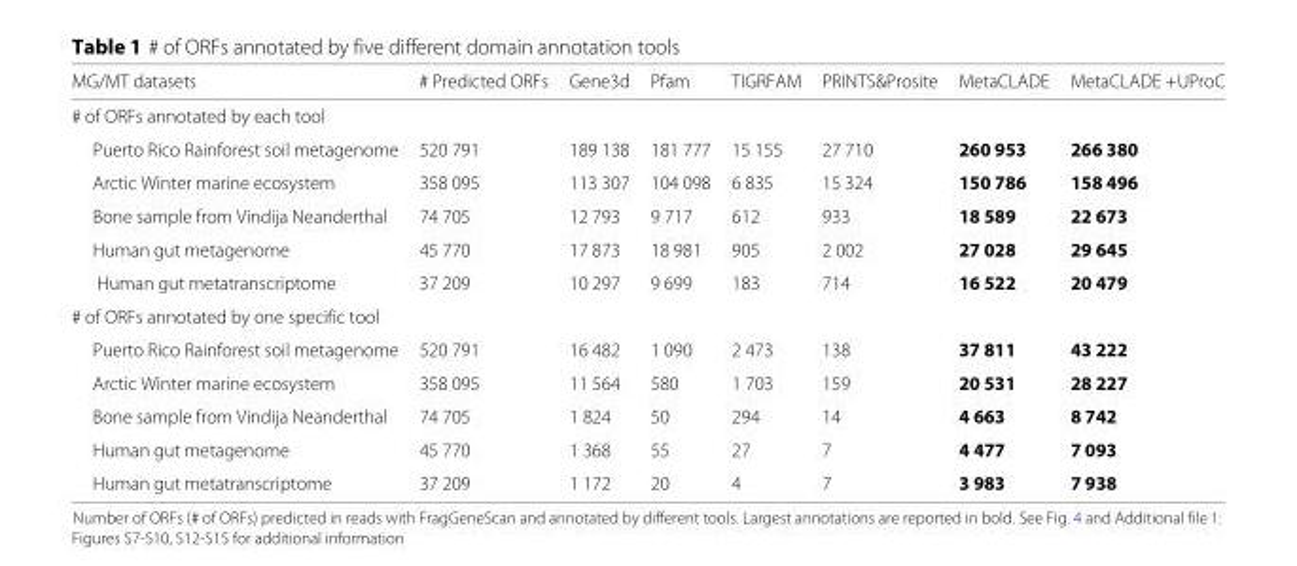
<table><thead><tr><td>MG/MT datasets</td><td># Predicted ORFs</td><td>Gene3d</td><td>Pfam</td><td>TIGRFAM</td><td>PRINTS&amp;Prosite</td><td>MetaCLADE</td><td>MetaCLADE +UProC</td></tr></thead><tbody><tr><td colspan="8"># of ORFs annotated by each tool</td></tr><tr><td>Puerto Rico Rainforest soil metagenome</td><td>520 791</td><td>189 138</td><td>181 777</td><td>15 155</td><td>27 710</td><td>260 953</td><td>266 380</td></tr><tr><td>Arctic Winter marine ecosystem</td><td>358 095</td><td>113 307</td><td>104 098</td><td>6 835</td><td>15 324</td><td>150 786</td><td>158 496</td></tr><tr><td>Bone sample from Vindija Neanderthal</td><td>74 705</td><td>12 793</td><td>9 717</td><td>612</td><td>933</td><td>18 589</td><td>22 673</td></tr><tr><td>Human gut metagenome</td><td>45 770</td><td>17 873</td><td>18 981</td><td>905</td><td>2 002</td><td>27 028</td><td>29 645</td></tr><tr><td>Human gut metatranscriptome</td><td>37 209</td><td>10 297</td><td>9 699</td><td>183</td><td>714</td><td>16 522</td><td>20 479</td></tr><tr><td colspan="8"># of ORFs annotated by one specific tool</td></tr><tr><td>Puerto Rico Rainforest soil metagenome</td><td>520 791</td><td>16 482</td><td>1 090</td><td>2 473</td><td>138</td><td>37 811</td><td>43 222</td></tr><tr><td>Arctic Winter marine ecosystem</td><td>358 095</td><td>11 564</td><td>580</td><td>1 703</td><td>159</td><td>20 531</td><td>28 227</td></tr><tr><td>Bone sample from Vindija Neanderthal</td><td>74 705</td><td>1 824</td><td>50</td><td>294</td><td>14</td><td>4 663</td><td>8 742</td></tr><tr><td>Human gut metagenome</td><td>45 770</td><td>1 368</td><td>55</td><td>27</td><td>7</td><td>4 477</td><td>7 093</td></tr><tr><td>Human gut metatranscriptome</td><td>37 209</td><td>1 172</td><td>20</td><td>4</td><td>7</td><td>3 983</td><td>7 938</td></tr></tbody></table>